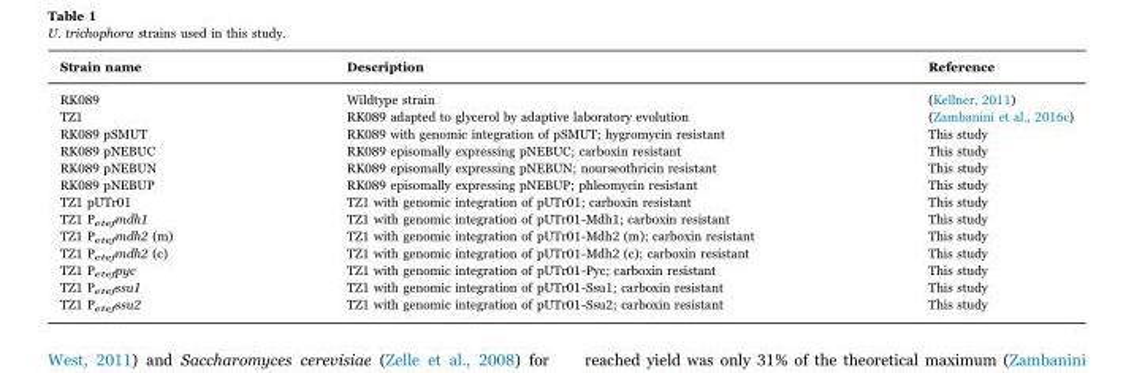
<table><thead><tr><td>Strain name</td><td>Description</td><td>Reference</td></tr></thead><tbody><tr><td>RK089</td><td>Wildtype strain</td><td>(Kellner, 2011)</td></tr><tr><td>TZ1</td><td>RK089 adapted to glycerol by adaptive laboratory evolution</td><td>(Zambanini et al., 2016c)</td></tr><tr><td>RK089 pSMUT</td><td>RK089 with genomic integration of pSMUT; hygromycin resistant</td><td>This study</td></tr><tr><td>RK089 pNEBUC</td><td>RK089 episomally expressing pNEBUC; carboxin resistant</td><td>This study</td></tr><tr><td>RK089 pNEBUN</td><td>RK089 episomally expressing pNEBUN; nourseothricin resistant</td><td>This study</td></tr><tr><td>RK089 pNEBUP</td><td>RK089 episomally expressing pNEBUP; phleomycin resistant</td><td>This study</td></tr><tr><td>TZ1 pUTr01</td><td>TZ1 with genomic integration of pUTr01; carboxin resistant</td><td>This study</td></tr><tr><td>TZ1 P<sub>etef</sub>mdh1</td><td>TZ1 with genomic integration of pUTr01-Mdh1; carboxin resistant</td><td>This study</td></tr><tr><td>TZ1 P<sub>etef</sub>mdh2 (m)</td><td>TZ1 with genomic integration of pUTr01-Mdh2 (m); carboxin resistant</td><td>This study</td></tr><tr><td>TZ1 P<sub>etef</sub>mdh2 (c)</td><td>TZ1 with genomic integration of pUTr01-Mdh2 (c); carboxin resistant</td><td>This study</td></tr><tr><td>TZ1 P<sub>etef</sub>pyc</td><td>TZ1 with genomic integration of pUTr01-Pyc; carboxin resistant</td><td>This study</td></tr><tr><td>TZ1 P<sub>etef</sub>ssu1</td><td>TZ1 with genomic integration of pUTr01-Ssu1; carboxin resistant</td><td>This study</td></tr><tr><td>TZ1 P<sub>etef</sub>ssu2</td><td>TZ1 with genomic integration of pUTr01-Ssu2; carboxin resistant</td><td>This study</td></tr></tbody></table>